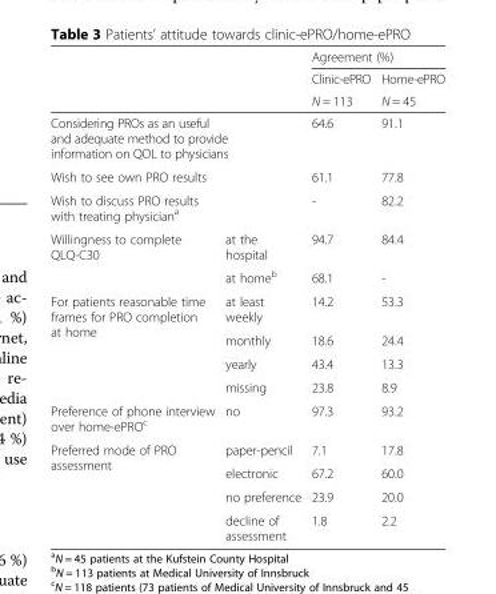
<table><thead><tr><td rowspan="3"></td><td rowspan="3"></td><td colspan="2">Agreement (%)</td></tr><tr><td rowspan="2">Clinic-ePRO N = 113</td><td rowspan="2">Home-ePRO N = 45</td></tr><tr></tr></thead><tbody><tr><td colspan="2">Considering PROs as an useful and adequate method to provide information on QOL to physicians</td><td>64.6</td><td>91.1</td></tr><tr><td colspan="2">Wish to see own PRO results</td><td>61.1</td><td>77.8</td></tr><tr><td colspan="2">Wish to discuss PRO results with treating physician<sup>a</sup></td><td>-</td><td>82.2</td></tr><tr><td rowspan="2">Willingness to complete QLQ-C30</td><td>at the hospital</td><td>94.7</td><td>84.4</td></tr><tr><td>at home<sup>b</sup></td><td>68.1</td><td>-</td></tr><tr><td rowspan="4">For patients reasonable time frames for PRO completion at home</td><td>at least weekly</td><td>14.2</td><td>53.3</td></tr><tr><td>monthly</td><td>18.6</td><td>24.4</td></tr><tr><td>yearly</td><td>43.4</td><td>13.3</td></tr><tr><td>missing</td><td>23.8</td><td>8.9</td></tr><tr><td>Preference of phone interview over home-ePRO<sup>c</sup></td><td>no</td><td>97.3</td><td>93.2</td></tr><tr><td rowspan="4">Preferred mode of PRO assessment</td><td>paper-pencil</td><td>7.1</td><td>17.8</td></tr><tr><td>electronic</td><td>67.2</td><td>60.0</td></tr><tr><td>no preference</td><td>23.9</td><td>20.0</td></tr><tr><td>decline of assessment</td><td>1.8</td><td>2.2</td></tr></tbody></table>